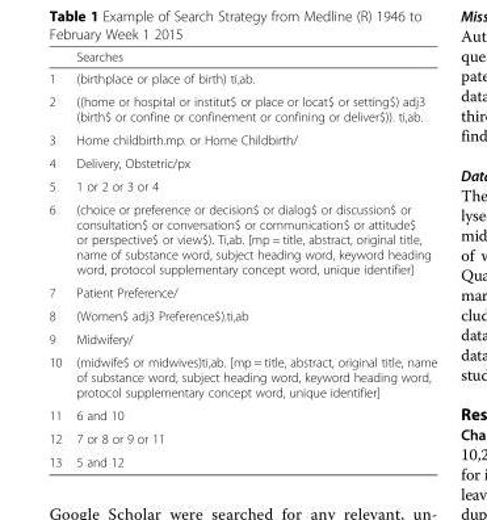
<table><thead><tr><td></td><td>Searches</td></tr></thead><tbody><tr><td>1</td><td>(birthplace or place of birth) ti,ab.</td></tr><tr><td>2</td><td>((home or hospital or institut$ or place or locat$ or setting$) adj3 (birth$ or confine or confinement or confining or deliver$)). ti,ab.</td></tr><tr><td>3</td><td>Home childbirth.mp. or Home Childbirth/</td></tr><tr><td>4</td><td>Delivery, Obstetric/px</td></tr><tr><td>5</td><td>1 or 2 or 3 or 4</td></tr><tr><td>6</td><td>(choice or preference or decision$ or dialog$ or discussion$ or consultation$ or conversation$ or communication$ or attitude$ or perspective$ or view$). Ti,ab. [mp = title, abstract, original title, name of substance word, subject heading word, keyword heading word, protocol supplementary concept word, unique identifier]</td></tr><tr><td>7</td><td>Patient Preference/</td></tr><tr><td>8</td><td>(Women$ adj3 Preference$).ti,ab</td></tr><tr><td>9</td><td>Midwifery/</td></tr><tr><td>10</td><td>(midwife$ or midwives)ti,ab. [mp = title, abstract, original title, name of substance word, subject heading word, keyword heading word, protocol supplementary concept word, unique identifier]</td></tr><tr><td>11</td><td>6 and 10</td></tr><tr><td>12</td><td>7 or 8 or 9 or 11</td></tr><tr><td>13</td><td>5 and 12</td></tr></tbody></table>